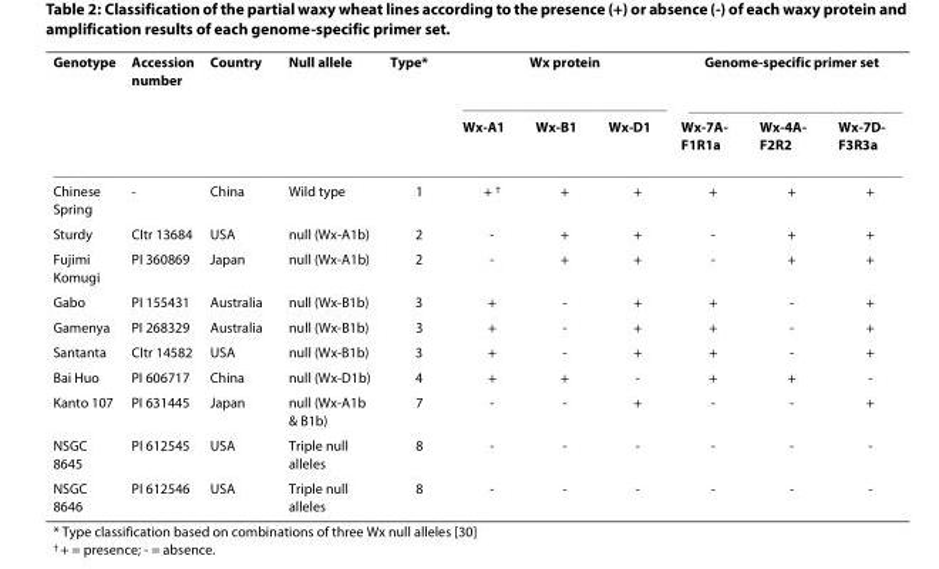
<table><thead><tr><td rowspan="2">Genotype</td><td rowspan="2">Accession number</td><td rowspan="2">Country</td><td rowspan="2">Null allele</td><td rowspan="2">Type*</td><td colspan="3">Wx protein</td><td colspan="3">Genome-specific primer set</td></tr><tr><td>Wx-A1</td><td>Wx-B1</td><td>Wx-D1</td><td>Wx-7A- F1R1a</td><td>Wx-4A- F2R2</td><td>Wx-7D- F3R3a</td></tr></thead><tbody><tr><td>Chinese Spring</td><td>-</td><td>China</td><td>Wild type</td><td>1</td><td>+ <sup>†</sup></td><td>+</td><td>+</td><td>+</td><td>+</td><td>+</td></tr><tr><td>Sturdy</td><td>CItr 13684</td><td>USA</td><td>null (Wx-A1b)</td><td>2</td><td>-</td><td>+</td><td>+</td><td>-</td><td>+</td><td>+</td></tr><tr><td>Fujimi Komugi</td><td>PI 360869</td><td>Japan</td><td>null (Wx-A1b)</td><td>2</td><td>-</td><td>+</td><td>+</td><td>-</td><td>+</td><td>+</td></tr><tr><td>Gabo</td><td>PI 155431</td><td>Australia</td><td>null (Wx-B1b)</td><td>3</td><td>+</td><td>-</td><td>+</td><td>+</td><td>-</td><td>+</td></tr><tr><td>Gamenya</td><td>PI 268329</td><td>Australia</td><td>null (Wx-B1b)</td><td>3</td><td>+</td><td>-</td><td>+</td><td>+</td><td>-</td><td>+</td></tr><tr><td>Santanta</td><td>CItr 14582</td><td>USA</td><td>null (Wx-B1b)</td><td>3</td><td>+</td><td>-</td><td>+</td><td>+</td><td>-</td><td>+</td></tr><tr><td>Bai Huo</td><td>PI 606717</td><td>China</td><td>null (Wx-D1b)</td><td>4</td><td>+</td><td>+</td><td>-</td><td>+</td><td>+</td><td>-</td></tr><tr><td>Kanto 107</td><td>PI 631445</td><td>Japan</td><td>null (Wx-A1b &amp; B1b)</td><td>7</td><td>-</td><td>-</td><td>+</td><td>-</td><td>-</td><td>+</td></tr><tr><td>NSGC 8645</td><td>PI 612545</td><td>USA</td><td>Triple null alleles</td><td>8</td><td>-</td><td>-</td><td>-</td><td>-</td><td>-</td><td>-</td></tr><tr><td>NSGC 8646</td><td>PI 612546</td><td>USA</td><td>Triple null alleles</td><td>8</td><td>-</td><td>-</td><td>-</td><td>-</td><td>-</td><td>-</td></tr></tbody></table>